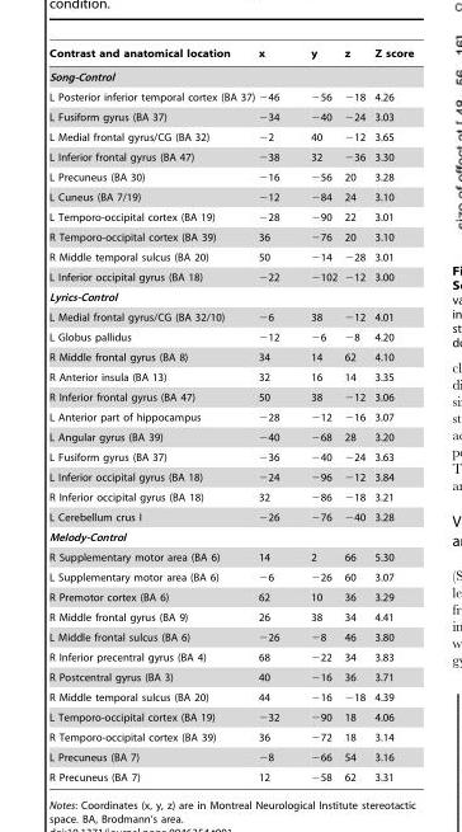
<table><thead><tr><td>Contrast and anatomical location</td><td>x</td><td>y</td><td>z</td><td>Z score</td></tr></thead><tbody><tr><td colspan="5">Song-Control</td></tr><tr><td>L Posterior inferior temporal cortex (BA 37)</td><td>−46</td><td>−56</td><td>−18</td><td>4.26</td></tr><tr><td>L Fusiform gyrus (BA 37)</td><td>−34</td><td>−40</td><td>−24</td><td>3.03</td></tr><tr><td>L Medial frontal gyrus/CG (BA 32)</td><td>−2</td><td>40</td><td>−12</td><td>3.65</td></tr><tr><td>L Inferior frontal gyrus (BA 47)</td><td>−38</td><td>32</td><td>−36</td><td>3.30</td></tr><tr><td>L Precuneus (BA 30)</td><td>−16</td><td>−56</td><td>20</td><td>3.28</td></tr><tr><td>L Cuneus (BA 7/19)</td><td>−12</td><td>−84</td><td>24</td><td>3.10</td></tr><tr><td>L Temporo-occipital cortex (BA 19)</td><td>−28</td><td>−90</td><td>22</td><td>3.01</td></tr><tr><td>R Temporo-occipital cortex (BA 39)</td><td>36</td><td>−76</td><td>20</td><td>3.10</td></tr><tr><td>R Middle temporal sulcus (BA 20)</td><td>50</td><td>−14</td><td>−28</td><td>3.01</td></tr><tr><td>L Inferior occipital gyrus (BA 18)</td><td>−22</td><td>−102</td><td>−12</td><td>3.00</td></tr><tr><td colspan="5">Lyrics-Control</td></tr><tr><td>L Medial frontal gyrus/CG (BA 32/10)</td><td>−6</td><td>38</td><td>−12</td><td>4.01</td></tr><tr><td>L Globus pallidus</td><td>−12</td><td>−6</td><td>−8</td><td>4.20</td></tr><tr><td>R Middle frontal gyrus (BA 8)</td><td>34</td><td>14</td><td>62</td><td>4.10</td></tr><tr><td>R Anterior insula (BA 13)</td><td>32</td><td>16</td><td>14</td><td>3.35</td></tr><tr><td>R Inferior frontal gyrus (BA 47)</td><td>50</td><td>38</td><td>−12</td><td>3.06</td></tr><tr><td>L Anterior part of hippocampus</td><td>−28</td><td>−12</td><td>−16</td><td>3.07</td></tr><tr><td>L Angular gyrus (BA 39)</td><td>−40</td><td>−68</td><td>28</td><td>3.20</td></tr><tr><td>L Fusiform gyrus (BA 37)</td><td>−36</td><td>−40</td><td>−24</td><td>3.63</td></tr><tr><td>L Inferior occipital gyrus (BA 18)</td><td>−24</td><td>−96</td><td>−12</td><td>3.84</td></tr><tr><td>R Inferior occipital gyrus (BA 18)</td><td>32</td><td>−86</td><td>−18</td><td>3.21</td></tr><tr><td>L Cerebellum crus I</td><td>−26</td><td>−76</td><td>−40</td><td>3.28</td></tr><tr><td colspan="5">Melody-Control</td></tr><tr><td>R Supplementary motor area (BA 6)</td><td>14</td><td>2</td><td>66</td><td>5.30</td></tr><tr><td>L Supplementary motor area (BA 6)</td><td>−6</td><td>−26</td><td>60</td><td>3.07</td></tr><tr><td>R Premotor cortex (BA 6)</td><td>62</td><td>10</td><td>36</td><td>3.29</td></tr><tr><td>R Middle frontal gyrus (BA 9)</td><td>26</td><td>38</td><td>34</td><td>4.41</td></tr><tr><td>L Middle frontal sulcus (BA 6)</td><td>−26</td><td>−8</td><td>46</td><td>3.80</td></tr><tr><td>R Inferior precentral gyrus (BA 4)</td><td>68</td><td>−22</td><td>34</td><td>3.83</td></tr><tr><td>R Postcentral gyrus (BA 3)</td><td>40</td><td>−16</td><td>36</td><td>3.71</td></tr><tr><td>R Middle temporal sulcus (BA 20)</td><td>44</td><td>−16</td><td>−18</td><td>4.39</td></tr><tr><td>L Temporo-occipital cortex (BA 19)</td><td>−32</td><td>−90</td><td>18</td><td>4.06</td></tr><tr><td>R Temporo-occipital cortex (BA 39)</td><td>36</td><td>−72</td><td>18</td><td>3.14</td></tr><tr><td>L Precuneus (BA 7)</td><td>−8</td><td>−66</td><td>54</td><td>3.16</td></tr><tr><td>R Precuneus (BA 7)</td><td>12</td><td>−58</td><td>62</td><td>3.31</td></tr></tbody></table>